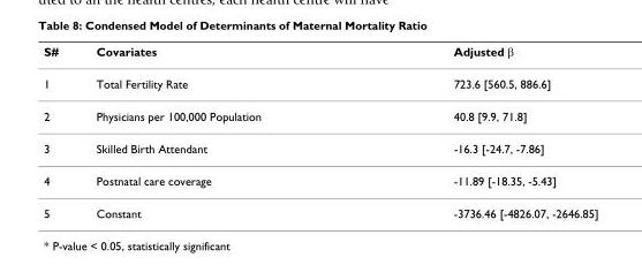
<table><thead><tr><td>S#</td><td>Covariates</td><td>Adjusted β</td></tr></thead><tbody><tr><td>1</td><td>Total Fertility Rate</td><td>723.6 [560.5, 886.6]</td></tr><tr><td>2</td><td>Physicians per 100,000 Population</td><td>40.8 [9.9, 71.8]</td></tr><tr><td>3</td><td>Skilled Birth Attendant</td><td>-16.3 [-24.7, -7.86]</td></tr><tr><td>4</td><td>Postnatal care coverage</td><td>-11.89 [-18.35, -5.43]</td></tr><tr><td>5</td><td>Constant</td><td>-3736.46 [-4826.07, -2646.85]</td></tr></tbody></table>